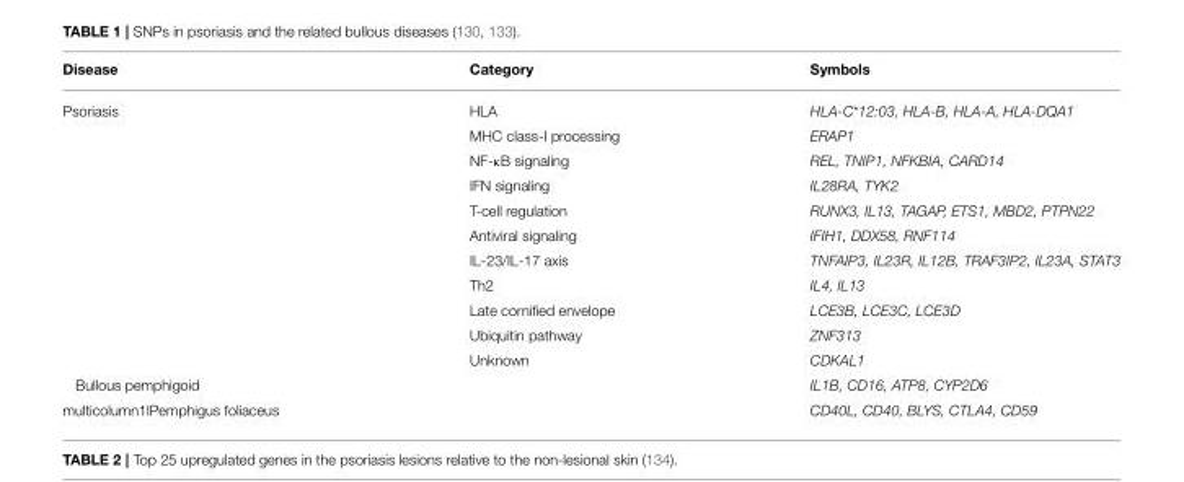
<table><thead><tr><td>Disease</td><td>Category</td><td>Symbols</td></tr></thead><tbody><tr><td rowspan="11">Psoriasis</td><td>HLA</td><td>HLA-C*12:03, HLA-B, HLA-A, HLA-DQA1</td></tr><tr><td>MHC class-I processing</td><td>ERAP1</td></tr><tr><td>NF-κB signaling</td><td>REL, TNIP1, NFKBIA, CARD14</td></tr><tr><td>IFN signaling</td><td>IL28RA, TYK2</td></tr><tr><td>T-cell regulation</td><td>RUNX3, IL13, TAGAP, ETS1, MBD2, PTPN22</td></tr><tr><td>Antiviral signaling</td><td>IFIH1, DDX58, RNF114</td></tr><tr><td>IL-23/IL-17 axis</td><td>TNFAIP3, IL23R, IL12B, TRAF3IP2, IL23A, STAT3</td></tr><tr><td>Th2</td><td>IL4, IL13</td></tr><tr><td>Late cornified envelope</td><td>LCE3B, LCE3C, LCE3D</td></tr><tr><td>Ubiquitin pathway</td><td>ZNF313</td></tr><tr><td>Unknown</td><td>CDKAL1</td></tr><tr><td>Bullous pemphigoid</td><td></td><td>IL1B, CD16, ATP8, CYP2D6</td></tr><tr><td>multicolumn1lPemphigus foliaceus</td><td></td><td>CD40L, CD40, BLYS, CTLA4, CD59</td></tr></tbody></table>